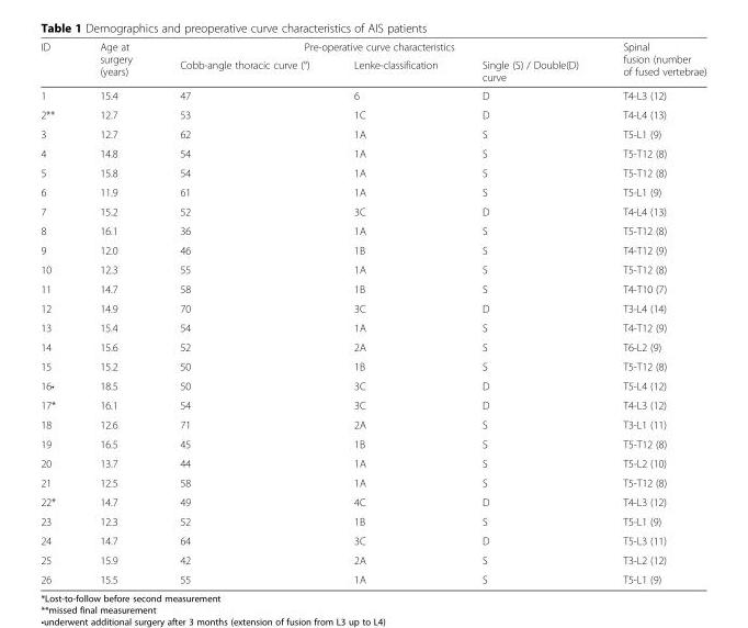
<table><thead><tr><td rowspan="2">ID</td><td rowspan="2">Age at surgery (years)</td><td colspan="3">Pre-operative curve characteristics</td><td rowspan="2">Spinal fusion (number of fused vertebrae)</td></tr><tr><td>Cobb-angle thoracic curve (°)</td><td>Lenke-classification</td><td>Single (S) / Double(D) curve</td></tr></thead><tbody><tr><td>1</td><td>15.4</td><td>47</td><td>6</td><td>D</td><td>T4-L3 (12)</td></tr><tr><td>2**</td><td>12.7</td><td>53</td><td>1C</td><td>D</td><td>T4-L4 (13)</td></tr><tr><td>3</td><td>12.7</td><td>62</td><td>1A</td><td>S</td><td>T5-L1 (9)</td></tr><tr><td>4</td><td>14.8</td><td>54</td><td>1A</td><td>S</td><td>T5-T12 (8)</td></tr><tr><td>5</td><td>15.8</td><td>54</td><td>1A</td><td>S</td><td>T5-T12 (8)</td></tr><tr><td>6</td><td>11.9</td><td>61</td><td>1A</td><td>S</td><td>T5-L1 (9)</td></tr><tr><td>7</td><td>15.2</td><td>52</td><td>3C</td><td>D</td><td>T4-L4 (13)</td></tr><tr><td>8</td><td>16.1</td><td>36</td><td>1A</td><td>S</td><td>T5-T12 (8)</td></tr><tr><td>9</td><td>12.0</td><td>46</td><td>1B</td><td>S</td><td>T4-T12 (9)</td></tr><tr><td>10</td><td>12.3</td><td>55</td><td>1A</td><td>S</td><td>T5-T12 (8)</td></tr><tr><td>11</td><td>14.7</td><td>58</td><td>1B</td><td>S</td><td>T4-T10 (7)</td></tr><tr><td>12</td><td>14.9</td><td>70</td><td>3C</td><td>D</td><td>T3-L4 (14)</td></tr><tr><td>13</td><td>15.4</td><td>54</td><td>1A</td><td>S</td><td>T4-T12 (9)</td></tr><tr><td>14</td><td>15.6</td><td>52</td><td>2A</td><td>S</td><td>T6-L2 (9)</td></tr><tr><td>15</td><td>15.2</td><td>50</td><td>1B</td><td>S</td><td>T5-T12 (8)</td></tr><tr><td>16•</td><td>18.5</td><td>50</td><td>3C</td><td>D</td><td>T5-L4 (12)</td></tr><tr><td>17*</td><td>16.1</td><td>54</td><td>3C</td><td>D</td><td>T4-L3 (12)</td></tr><tr><td>18</td><td>12.6</td><td>71</td><td>2A</td><td>S</td><td>T3-L1 (11)</td></tr><tr><td>19</td><td>16.5</td><td>45</td><td>1B</td><td>S</td><td>T5-T12 (8)</td></tr><tr><td>20</td><td>13.7</td><td>44</td><td>1A</td><td>S</td><td>T5-L2 (10)</td></tr><tr><td>21</td><td>12.5</td><td>58</td><td>1A</td><td>S</td><td>T5-T12 (8)</td></tr><tr><td>22*</td><td>14.7</td><td>49</td><td>4C</td><td>D</td><td>T4-L3 (12)</td></tr><tr><td>23</td><td>12.3</td><td>52</td><td>1B</td><td>S</td><td>T5-L1 (9)</td></tr><tr><td>24</td><td>14.7</td><td>64</td><td>3C</td><td>D</td><td>T5-L3 (11)</td></tr><tr><td>25</td><td>15.9</td><td>42</td><td>2A</td><td>S</td><td>T3-L2 (12)</td></tr><tr><td>26</td><td>15.5</td><td>55</td><td>1A</td><td>S</td><td>T5-L1 (9)</td></tr></tbody></table>